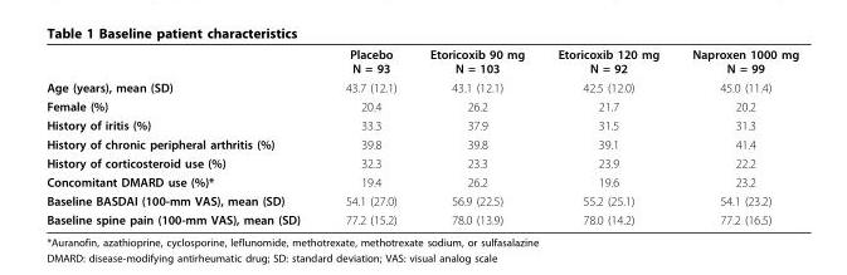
<table><thead><tr><td></td><td>Placebo N = 93</td><td>Etoricoxib 90 mg N = 103</td><td>Etoricoxib 120 mg N = 92</td><td>Naproxen 1000 mg N = 99</td></tr></thead><tbody><tr><td>Age (years), mean (SD)</td><td>43.7 (12.1)</td><td>43.1 (12.1)</td><td>42.5 (12.0)</td><td>45.0 (11.4)</td></tr><tr><td>Female (%)</td><td>20.4</td><td>26.2</td><td>21.7</td><td>20.2</td></tr><tr><td>History of iritis (%)</td><td>33.3</td><td>37.9</td><td>31.5</td><td>31.3</td></tr><tr><td>History of chronic peripheral arthritis (%)</td><td>39.8</td><td>39.8</td><td>39.1</td><td>41.4</td></tr><tr><td>History of corticosteroid use (%)</td><td>32.3</td><td>23.3</td><td>23.9</td><td>22.2</td></tr><tr><td>Concomitant DMARD use (%)*</td><td>19.4</td><td>26.2</td><td>19.6</td><td>23.2</td></tr><tr><td>Baseline BASDAI (100-mm VAS), mean (SD)</td><td>54.1 (27.0)</td><td>56.9 (22.5)</td><td>55.2 (25.1)</td><td>54.1 (23.2)</td></tr><tr><td>Baseline spine pain (100-mm VAS), mean (SD)</td><td>77.2 (15.2)</td><td>78.0 (13.9)</td><td>78.0 (14.2)</td><td>77.2 (16.5)</td></tr></tbody></table>